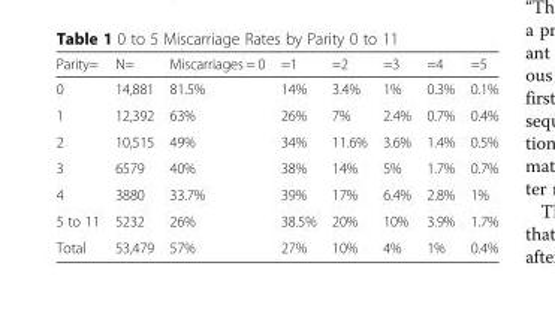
<table><thead><tr><td>Parity=</td><td>N=</td><td>Miscarriages = 0</td><td>=1</td><td>=2</td><td>=3</td><td>=4</td><td>=5</td></tr></thead><tbody><tr><td>0</td><td>14,881</td><td>81.5%</td><td>14%</td><td>3.4%</td><td>1%</td><td>0.3%</td><td>0.1%</td></tr><tr><td>1</td><td>12,392</td><td>63%</td><td>26%</td><td>7%</td><td>2.4%</td><td>0.7%</td><td>0.4%</td></tr><tr><td>2</td><td>10,515</td><td>49%</td><td>34%</td><td>11.6%</td><td>3.6%</td><td>1.4%</td><td>0.5%</td></tr><tr><td>3</td><td>6579</td><td>40%</td><td>38%</td><td>14%</td><td>5%</td><td>1.7%</td><td>0.7%</td></tr><tr><td>4</td><td>3880</td><td>33.7%</td><td>39%</td><td>17%</td><td>6.4%</td><td>2.8%</td><td>1%</td></tr><tr><td>5 to 11</td><td>5232</td><td>26%</td><td>38.5%</td><td>20%</td><td>10%</td><td>3.9%</td><td>1.7%</td></tr><tr><td>Total</td><td>53,479</td><td>57%</td><td>27%</td><td>10%</td><td>4%</td><td>1%</td><td>0.4%</td></tr></tbody></table>